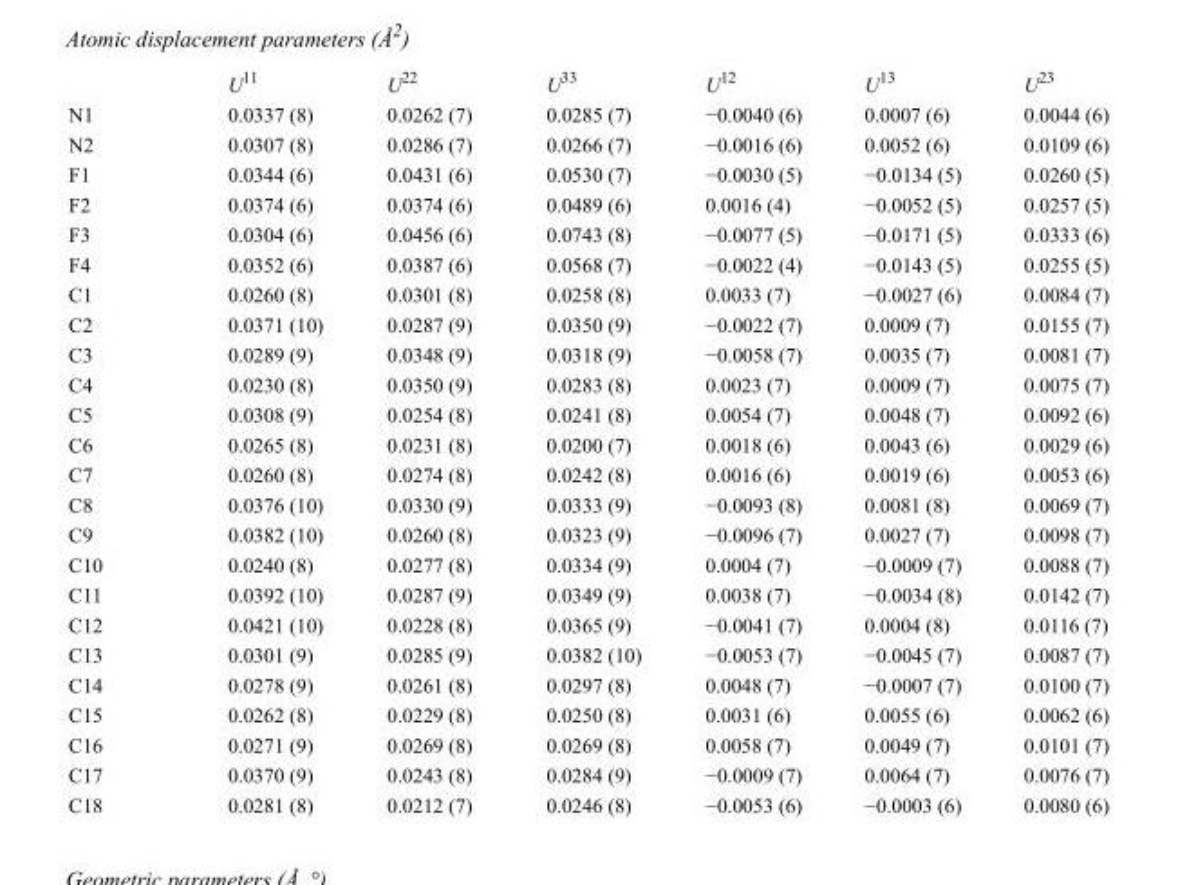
<table><thead><tr><td></td><td>U<sup>11</sup></td><td>U<sup>22</sup></td><td>U<sup>33</sup></td><td>U<sup>12</sup></td><td>U<sup>13</sup></td><td>U<sup>23</sup></td></tr></thead><tbody><tr><td>N1</td><td>0.0337 (8)</td><td>0.0262 (7)</td><td>0.0285 (7)</td><td>−0.0040 (6)</td><td>0.0007 (6)</td><td>0.0044 (6)</td></tr><tr><td>N2</td><td>0.0307 (8)</td><td>0.0286 (7)</td><td>0.0266 (7)</td><td>−0.0016 (6)</td><td>0.0052 (6)</td><td>0.0109 (6)</td></tr><tr><td>F1</td><td>0.0344 (6)</td><td>0.0431 (6)</td><td>0.0530 (7)</td><td>−0.0030 (5)</td><td>−0.0134 (5)</td><td>0.0260 (5)</td></tr><tr><td>F2</td><td>0.0374 (6)</td><td>0.0374 (6)</td><td>0.0489 (6)</td><td>0.0016 (4)</td><td>−0.0052 (5)</td><td>0.0257 (5)</td></tr><tr><td>F3</td><td>0.0304 (6)</td><td>0.0456 (6)</td><td>0.0743 (8)</td><td>−0.0077 (5)</td><td>−0.0171 (5)</td><td>0.0333 (6)</td></tr><tr><td>F4</td><td>0.0352 (6)</td><td>0.0387 (6)</td><td>0.0568 (7)</td><td>−0.0022 (4)</td><td>−0.0143 (5)</td><td>0.0255 (5)</td></tr><tr><td>C1</td><td>0.0260 (8)</td><td>0.0301 (8)</td><td>0.0258 (8)</td><td>0.0033 (7)</td><td>−0.0027 (6)</td><td>0.0084 (7)</td></tr><tr><td>C2</td><td>0.0371 (10)</td><td>0.0287 (9)</td><td>0.0350 (9)</td><td>−0.0022 (7)</td><td>0.0009 (7)</td><td>0.0155 (7)</td></tr><tr><td>C3</td><td>0.0289 (9)</td><td>0.0348 (9)</td><td>0.0318 (9)</td><td>−0.0058 (7)</td><td>0.0035 (7)</td><td>0.0081 (7)</td></tr><tr><td>C4</td><td>0.0230 (8)</td><td>0.0350 (9)</td><td>0.0283 (8)</td><td>0.0023 (7)</td><td>0.0009 (7)</td><td>0.0075 (7)</td></tr><tr><td>C5</td><td>0.0308 (9)</td><td>0.0254 (8)</td><td>0.0241 (8)</td><td>0.0054 (7)</td><td>0.0048 (7)</td><td>0.0092 (6)</td></tr><tr><td>C6</td><td>0.0265 (8)</td><td>0.0231 (8)</td><td>0.0200 (7)</td><td>0.0018 (6)</td><td>0.0043 (6)</td><td>0.0029 (6)</td></tr><tr><td>C7</td><td>0.0260 (8)</td><td>0.0274 (8)</td><td>0.0242 (8)</td><td>0.0016 (6)</td><td>0.0019 (6)</td><td>0.0053 (6)</td></tr><tr><td>C8</td><td>0.0376 (10)</td><td>0.0330 (9)</td><td>0.0333 (9)</td><td>−0.0093 (8)</td><td>0.0081 (8)</td><td>0.0069 (7)</td></tr><tr><td>C9</td><td>0.0382 (10)</td><td>0.0260 (8)</td><td>0.0323 (9)</td><td>−0.0096 (7)</td><td>0.0027 (7)</td><td>0.0098 (7)</td></tr><tr><td>C10</td><td>0.0240 (8)</td><td>0.0277 (8)</td><td>0.0334 (9)</td><td>0.0004 (7)</td><td>−0.0009 (7)</td><td>0.0088 (7)</td></tr><tr><td>C11</td><td>0.0392 (10)</td><td>0.0287 (9)</td><td>0.0349 (9)</td><td>0.0038 (7)</td><td>−0.0034 (8)</td><td>0.0142 (7)</td></tr><tr><td>C12</td><td>0.0421 (10)</td><td>0.0228 (8)</td><td>0.0365 (9)</td><td>−0.0041 (7)</td><td>0.0004 (8)</td><td>0.0116 (7)</td></tr><tr><td>C13</td><td>0.0301 (9)</td><td>0.0285 (9)</td><td>0.0382 (10)</td><td>−0.0053 (7)</td><td>−0.0045 (7)</td><td>0.0087 (7)</td></tr><tr><td>C14</td><td>0.0278 (9)</td><td>0.0261 (8)</td><td>0.0297 (8)</td><td>0.0048 (7)</td><td>−0.0007 (7)</td><td>0.0100 (7)</td></tr><tr><td>C15</td><td>0.0262 (8)</td><td>0.0229 (8)</td><td>0.0250 (8)</td><td>0.0031 (6)</td><td>0.0055 (6)</td><td>0.0062 (6)</td></tr><tr><td>C16</td><td>0.0271 (9)</td><td>0.0269 (8)</td><td>0.0269 (8)</td><td>0.0058 (7)</td><td>0.0049 (7)</td><td>0.0101 (7)</td></tr><tr><td>C17</td><td>0.0370 (9)</td><td>0.0243 (8)</td><td>0.0284 (9)</td><td>−0.0009 (7)</td><td>0.0064 (7)</td><td>0.0076 (7)</td></tr><tr><td>C18</td><td>0.0281 (8)</td><td>0.0212 (7)</td><td>0.0246 (8)</td><td>−0.0053 (6)</td><td>−0.0003 (6)</td><td>0.0080 (6)</td></tr></tbody></table>